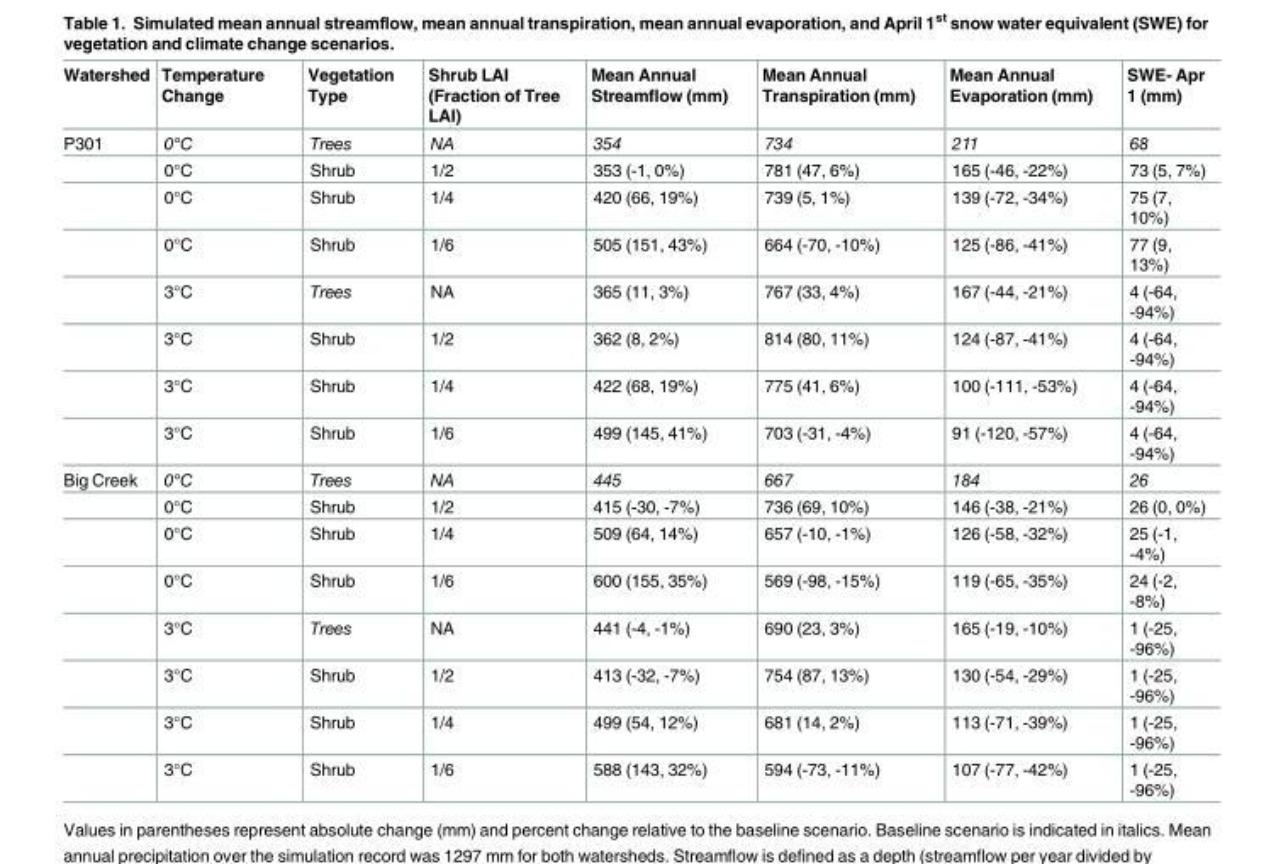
<table><thead><tr><td>Watershed</td><td>Temperature Change</td><td>Vegetation Type</td><td>Shrub LAI (Fraction of Tree LAI)</td><td>Mean Annual Streamflow (mm)</td><td>Mean Annual Transpiration (mm)</td><td>Mean Annual Evaporation (mm)</td><td>SWE- Apr 1 (mm)</td></tr></thead><tbody><tr><td rowspan="8">P301</td><td>0°C</td><td>Trees</td><td>NA</td><td>354</td><td>734</td><td>211</td><td>68</td></tr><tr><td>0°C</td><td>Shrub</td><td>1/2</td><td>353 (-1, 0%)</td><td>781 (47, 6%)</td><td>165 (-46, -22%)</td><td>73 (5, 7%)</td></tr><tr><td>0°C</td><td>Shrub</td><td>1/4</td><td>420 (66, 19%)</td><td>739 (5, 1%)</td><td>139 (-72, -34%)</td><td>75 (7, 10%)</td></tr><tr><td>0°C</td><td>Shrub</td><td>1/6</td><td>505 (151, 43%)</td><td>664 (-70, -10%)</td><td>125 (-86, -41%)</td><td>77 (9, 13%)</td></tr><tr><td>3°C</td><td>Trees</td><td>NA</td><td>365 (11, 3%)</td><td>767 (33, 4%)</td><td>167 (-44, -21%)</td><td>4 (-64, -94%)</td></tr><tr><td>3°C</td><td>Shrub</td><td>1/2</td><td>362 (8, 2%)</td><td>814 (80, 11%)</td><td>124 (-87, -41%)</td><td>4 (-64, -94%)</td></tr><tr><td>3°C</td><td>Shrub</td><td>1/4</td><td>422 (68, 19%)</td><td>775 (41, 6%)</td><td>100 (-111, -53%)</td><td>4 (-64, -94%)</td></tr><tr><td>3°C</td><td>Shrub</td><td>1/6</td><td>499 (145, 41%)</td><td>703 (-31, -4%)</td><td>91 (-120, -57%)</td><td>4 (-64, -94%)</td></tr><tr><td rowspan="8">Big Creek</td><td>0°C</td><td>Trees</td><td>NA</td><td>445</td><td>667</td><td>184</td><td>26</td></tr><tr><td>0°C</td><td>Shrub</td><td>1/2</td><td>415 (-30, -7%)</td><td>736 (69, 10%)</td><td>146 (-38, -21%)</td><td>26 (0, 0%)</td></tr><tr><td>0°C</td><td>Shrub</td><td>1/4</td><td>509 (64, 14%)</td><td>657 (-10, -1%)</td><td>126 (-58, -32%)</td><td>25 (-1, -4%)</td></tr><tr><td>0°C</td><td>Shrub</td><td>1/6</td><td>600 (155, 35%)</td><td>569 (-98, -15%)</td><td>119 (-65, -35%)</td><td>24 (-2, -8%)</td></tr><tr><td>3°C</td><td>Trees</td><td>NA</td><td>441 (-4, -1%)</td><td>690 (23, 3%)</td><td>165 (-19, -10%)</td><td>1 (-25, -96%)</td></tr><tr><td>3°C</td><td>Shrub</td><td>1/2</td><td>413 (-32, -7%)</td><td>754 (87, 13%)</td><td>130 (-54, -29%)</td><td>1 (-25, -96%)</td></tr><tr><td>3°C</td><td>Shrub</td><td>1/4</td><td>499 (54, 12%)</td><td>681 (14, 2%)</td><td>113 (-71, -39%)</td><td>1 (-25, -96%)</td></tr><tr><td>3°C</td><td>Shrub</td><td>1/6</td><td>588 (143, 32%)</td><td>594 (-73, -11%)</td><td>107 (-77, -42%)</td><td>1 (-25, -96%)</td></tr></tbody></table>